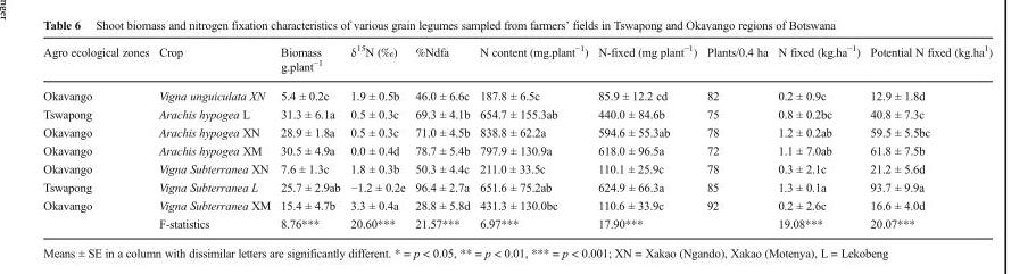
<table><thead><tr><td>Agro ecological zones</td><td>Crop</td><td>Biomass g.plant<sup>−1</sup></td><td>δ<sup>15</sup>N (‰)</td><td>%Ndfa</td><td>N content (mg.plant<sup>−1</sup>)</td><td>N-fixed (mg plant<sup>−1</sup>)</td><td>Plants/0.4 ha</td><td>N fixed (kg.ha<sup>−1</sup>)</td><td>Potential N fixed (kg.ha<sup>1</sup>)</td></tr></thead><tbody><tr><td>Okavango</td><td>Vigna unguiculata XN</td><td>5.4 ± 0.2c</td><td>1.9 ± 0.5b</td><td>46.0 ± 6.6c</td><td>187.8 ± 6.5c</td><td>85.9 ± 12.2 cd</td><td>82</td><td>0.2 ± 0.9c</td><td>12.9 ± 1.8d</td></tr><tr><td>Tswapong</td><td>Arachis hypogea L</td><td>31.3 ± 6.1a</td><td>0.5 ± 0.3c</td><td>69.3 ± 4.1b</td><td>654.7 ± 155.3ab</td><td>440.0 ± 84.6b</td><td>75</td><td>0.8 ± 0.2bc</td><td>40.8 ± 7.3c</td></tr><tr><td>Okavango</td><td>Arachis hypogea XN</td><td>28.9 ± 1.8a</td><td>0.5 ± 0.3c</td><td>71.0 ± 4.5b</td><td>838.8 ± 62.2a</td><td>594.6 ± 55.3ab</td><td>78</td><td>1.2 ± 0.2ab</td><td>59.5 ± 5.5bc</td></tr><tr><td>Okavango</td><td>Arachis hypogea XM</td><td>30.5 ± 4.9a</td><td>0.0 ± 0.4d</td><td>78.7 ± 5.4b</td><td>797.9 ± 130.9a</td><td>618.0 ± 96.5a</td><td>72</td><td>1.1 ± 7.0ab</td><td>61.8 ± 7.5b</td></tr><tr><td>Okavango</td><td>Vigna Subterranea XN</td><td>7.6 ± 1.3c</td><td>1.8 ± 0.3b</td><td>50.3 ± 4.4c</td><td>211.0 ± 33.5c</td><td>110.1 ± 25.9c</td><td>78</td><td>0.3 ± 2.1c</td><td>21.2 ± 5.6d</td></tr><tr><td>Tswapong</td><td>Vigna Subterranea L</td><td>25.7 ± 2.9ab</td><td>−1.2 ± 0.2e</td><td>96.4 ± 2.7a</td><td>651.6 ± 75.2ab</td><td>624.9 ± 66.3a</td><td>85</td><td>1.3 ± 0.1a</td><td>93.7 ± 9.9a</td></tr><tr><td rowspan="2">Okavango</td><td>Vigna Subterranea XM</td><td>15.4 ± 4.7b</td><td>3.3 ± 0.4a</td><td>28.8 ± 5.8d</td><td>431.3 ± 130.0bc</td><td>110.6 ± 33.9c</td><td>92</td><td>0.2 ± 2.6c</td><td>16.6 ± 4.0d</td></tr><tr><td>F-statistics</td><td>8.76***</td><td>20.60***</td><td>21.57***</td><td>6.97***</td><td>17.90***</td><td></td><td>19.08***</td><td>20.07***</td></tr></tbody></table>